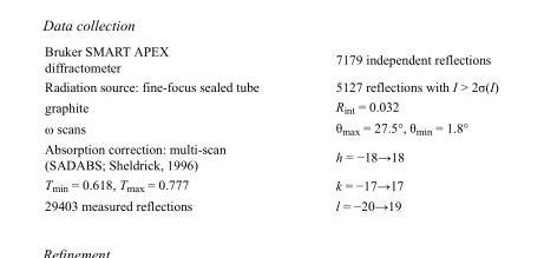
<table><tbody><tr><td>Bruker SMART APEX diffractometer</td><td>7179 independent reflections</td></tr><tr><td>Radiation source: fine-focus sealed tube</td><td>5127 reflections with I &gt; 2σ(I)</td></tr><tr><td>graphite</td><td>R<sub>int</sub> = 0.032</td></tr><tr><td>ω scans</td><td>θ<sub>max</sub> = 27.5°, θ<sub>min</sub> = 1.8°</td></tr><tr><td>Absorption correction: multi-scan (SADABS; Sheldrick, 1996)</td><td>h = −18→18</td></tr><tr><td>T<sub>min</sub> = 0.618, T<sub>max</sub> = 0.777</td><td>k = −17→17</td></tr><tr><td>29403 measured reflections</td><td>l = −20→19</td></tr></tbody></table>